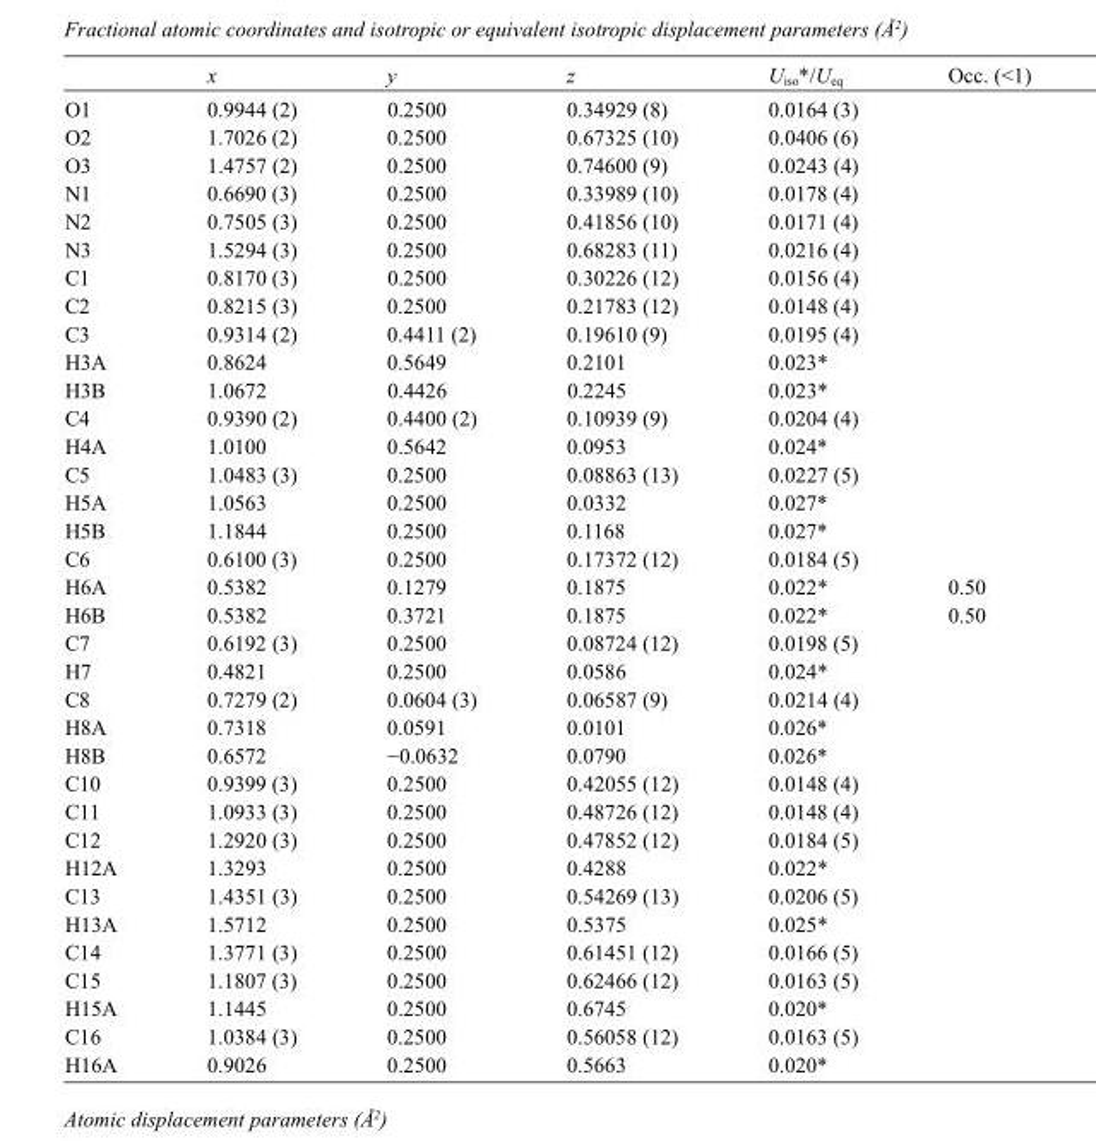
<table><thead><tr><td></td><td>x</td><td>y</td><td>z</td><td>U<sub>iso</sub>*/U<sub>eq</sub></td><td>Occ. (&lt;1)</td></tr></thead><tbody><tr><td>O1</td><td>0.9944 (2)</td><td>0.2500</td><td>0.34929 (8)</td><td>0.0164 (3)</td><td></td></tr><tr><td>O2</td><td>1.7026 (2)</td><td>0.2500</td><td>0.67325 (10)</td><td>0.0406 (6)</td><td></td></tr><tr><td>O3</td><td>1.4757 (2)</td><td>0.2500</td><td>0.74600 (9)</td><td>0.0243 (4)</td><td></td></tr><tr><td>N1</td><td>0.6690 (3)</td><td>0.2500</td><td>0.33989 (10)</td><td>0.0178 (4)</td><td></td></tr><tr><td>N2</td><td>0.7505 (3)</td><td>0.2500</td><td>0.41856 (10)</td><td>0.0171 (4)</td><td></td></tr><tr><td>N3</td><td>1.5294 (3)</td><td>0.2500</td><td>0.68283 (11)</td><td>0.0216 (4)</td><td></td></tr><tr><td>C1</td><td>0.8170 (3)</td><td>0.2500</td><td>0.30226 (12)</td><td>0.0156 (4)</td><td></td></tr><tr><td>C2</td><td>0.8215 (3)</td><td>0.2500</td><td>0.21783 (12)</td><td>0.0148 (4)</td><td></td></tr><tr><td>C3</td><td>0.9314 (2)</td><td>0.4411 (2)</td><td>0.19610 (9)</td><td>0.0195 (4)</td><td></td></tr><tr><td>H3A</td><td>0.8624</td><td>0.5649</td><td>0.2101</td><td>0.023*</td><td></td></tr><tr><td>H3B</td><td>1.0672</td><td>0.4426</td><td>0.2245</td><td>0.023*</td><td></td></tr><tr><td>C4</td><td>0.9390 (2)</td><td>0.4400 (2)</td><td>0.10939 (9)</td><td>0.0204 (4)</td><td></td></tr><tr><td>H4A</td><td>1.0100</td><td>0.5642</td><td>0.0953</td><td>0.024*</td><td></td></tr><tr><td>C5</td><td>1.0483 (3)</td><td>0.2500</td><td>0.08863 (13)</td><td>0.0227 (5)</td><td></td></tr><tr><td>H5A</td><td>1.0563</td><td>0.2500</td><td>0.0332</td><td>0.027*</td><td></td></tr><tr><td>H5B</td><td>1.1844</td><td>0.2500</td><td>0.1168</td><td>0.027*</td><td></td></tr><tr><td>C6</td><td>0.6100 (3)</td><td>0.2500</td><td>0.17372 (12)</td><td>0.0184 (5)</td><td></td></tr><tr><td>H6A</td><td>0.5382</td><td>0.1279</td><td>0.1875</td><td>0.022*</td><td>0.50</td></tr><tr><td>H6B</td><td>0.5382</td><td>0.3721</td><td>0.1875</td><td>0.022*</td><td>0.50</td></tr><tr><td>C7</td><td>0.6192 (3)</td><td>0.2500</td><td>0.08724 (12)</td><td>0.0198 (5)</td><td></td></tr><tr><td>H7</td><td>0.4821</td><td>0.2500</td><td>0.0586</td><td>0.024*</td><td></td></tr><tr><td>C8</td><td>0.7279 (2)</td><td>0.0604 (3)</td><td>0.06587 (9)</td><td>0.0214 (4)</td><td></td></tr><tr><td>H8A</td><td>0.7318</td><td>0.0591</td><td>0.0101</td><td>0.026*</td><td></td></tr><tr><td>H8B</td><td>0.6572</td><td>−0.0632</td><td>0.0790</td><td>0.026*</td><td></td></tr><tr><td>C10</td><td>0.9399 (3)</td><td>0.2500</td><td>0.42055 (12)</td><td>0.0148 (4)</td><td></td></tr><tr><td>C11</td><td>1.0933 (3)</td><td>0.2500</td><td>0.48726 (12)</td><td>0.0148 (4)</td><td></td></tr><tr><td>C12</td><td>1.2920 (3)</td><td>0.2500</td><td>0.47852 (12)</td><td>0.0184 (5)</td><td></td></tr><tr><td>H12A</td><td>1.3293</td><td>0.2500</td><td>0.4288</td><td>0.022*</td><td></td></tr><tr><td>C13</td><td>1.4351 (3)</td><td>0.2500</td><td>0.54269 (13)</td><td>0.0206 (5)</td><td></td></tr><tr><td>H13A</td><td>1.5712</td><td>0.2500</td><td>0.5375</td><td>0.025*</td><td></td></tr><tr><td>C14</td><td>1.3771 (3)</td><td>0.2500</td><td>0.61451 (12)</td><td>0.0166 (5)</td><td></td></tr><tr><td>C15</td><td>1.1807 (3)</td><td>0.2500</td><td>0.62466 (12)</td><td>0.0163 (5)</td><td></td></tr><tr><td>H15A</td><td>1.1445</td><td>0.2500</td><td>0.6745</td><td>0.020*</td><td></td></tr><tr><td>C16</td><td>1.0384 (3)</td><td>0.2500</td><td>0.56058 (12)</td><td>0.0163 (5)</td><td></td></tr><tr><td>H16A</td><td>0.9026</td><td>0.2500</td><td>0.5663</td><td>0.020*</td><td></td></tr></tbody></table>